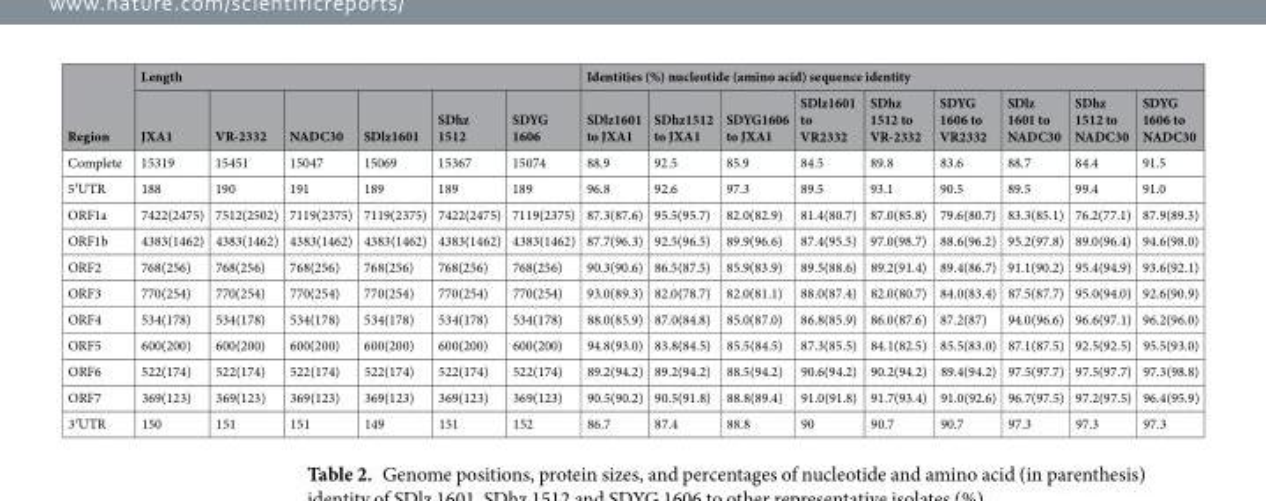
<table><thead><tr><td rowspan="2">Region</td><td colspan="6">Length</td><td colspan="9">Identities (%) nucleotide (amino acid) sequence identity</td></tr><tr><td>JXA1</td><td>VR-2332</td><td>NADC30</td><td>SDlz1601</td><td>SDhz 1512</td><td>SDYG 1606</td><td>SDlz1601 to JXA1</td><td>SDhz1512 to JXA1</td><td>SDYG1606 to JXA1</td><td>SDlz1601 to VR2332</td><td>SDhz 1512 to VR-2332</td><td>SDYG 1606 to VR2332</td><td>SDlz 1601 to NADC30</td><td>SDhz 1512 to NADC30</td><td>SDYG 1606 to NADC30</td></tr></thead><tbody><tr><td>Complete</td><td>15319</td><td>15451</td><td>15047</td><td>15069</td><td>15367</td><td>15074</td><td>88.9</td><td>92.5</td><td>85.9</td><td>84.5</td><td>89.8</td><td>83.6</td><td>88.7</td><td>84.4</td><td>91.5</td></tr><tr><td>5′UTR</td><td>188</td><td>190</td><td>191</td><td>189</td><td>189</td><td>189</td><td>96.8</td><td>92.6</td><td>97.3</td><td>89.5</td><td>93.1</td><td>90.5</td><td>89.5</td><td>99.4</td><td>91.0</td></tr><tr><td>ORF1a</td><td>7422(2475)</td><td>7512(2502)</td><td>7119(2375)</td><td>7119(2375)</td><td>7422(2475)</td><td>7119(2375)</td><td>87.3(87.6)</td><td>95.5(95.7)</td><td>82.0(82.9)</td><td>81.4(80.7)</td><td>87.0(85.8)</td><td>79.6(80.7)</td><td>83.3(85.1)</td><td>76.2(77.1)</td><td>87.9(89.3)</td></tr><tr><td>ORF1b</td><td>4383(1462)</td><td>4383(1462)</td><td>4383(1462)</td><td>4383(1462)</td><td>4383(1462)</td><td>4383(1462)</td><td>87.7(96.3)</td><td>92.5(96.5)</td><td>89.9(96.6)</td><td>87.4(95.5)</td><td>97.0(98.7)</td><td>88.6(96.2)</td><td>95.2(97.8)</td><td>89.0(96.4)</td><td>94.6(98.0)</td></tr><tr><td>ORF2</td><td>768(256)</td><td>768(256)</td><td>768(256)</td><td>768(256)</td><td>768(256)</td><td>768(256)</td><td>90.3(90.6)</td><td>86.5(87.5)</td><td>85.9(83.9)</td><td>89.5(88.6)</td><td>89.2(91.4)</td><td>89.4(86.7)</td><td>91.1(90.2)</td><td>95.4(94.9)</td><td>93.6(92.1)</td></tr><tr><td>ORF3</td><td>770(254)</td><td>770(254)</td><td>770(254)</td><td>770(254)</td><td>770(254)</td><td>770(254)</td><td>93.0(89.3)</td><td>82.0(78.7)</td><td>82.0(81.1)</td><td>88.0(87.4)</td><td>82.0(80.7)</td><td>84.0(83.4)</td><td>87.5(87.7)</td><td>95.0(94.0)</td><td>92.6(90.9)</td></tr><tr><td>ORF4</td><td>534(178)</td><td>534(178)</td><td>534(178)</td><td>534(178)</td><td>534(178)</td><td>534(178)</td><td>88.0(85.9)</td><td>87.0(84.8)</td><td>85.0(87.0)</td><td>86.8(85.9)</td><td>86.0(87.6)</td><td>87.2(87)</td><td>94.0(96.6)</td><td>96.6(97.1)</td><td>96.2(96.0)</td></tr><tr><td>ORF5</td><td>600(200)</td><td>600(200)</td><td>600(200)</td><td>600(200)</td><td>600(200)</td><td>600(200)</td><td>94.8(93.0)</td><td>83.8(84.5)</td><td>85.5(84.5)</td><td>87.3(85.5)</td><td>84.1(82.5)</td><td>85.5(83.0)</td><td>87.1(87.5)</td><td>92.5(92.5)</td><td>95.5(93.0)</td></tr><tr><td>ORF6</td><td>522(174)</td><td>522(174)</td><td>522(174)</td><td>522(174)</td><td>522(174)</td><td>522(174)</td><td>89.2(94.2)</td><td>89.2(94.2)</td><td>88.5(94.2)</td><td>90.6(94.2)</td><td>90.2(94.2)</td><td>89.4(94.2)</td><td>97.5(97.7)</td><td>97.5(97.7)</td><td>97.3(98.8)</td></tr><tr><td>ORF7</td><td>369(123)</td><td>369(123)</td><td>369(123)</td><td>369(123)</td><td>369(123)</td><td>369(123)</td><td>90.5(90.2)</td><td>90.5(91.8)</td><td>88.8(89.4)</td><td>91.0(91.8)</td><td>91.7(93.4)</td><td>91.0(92.6)</td><td>96.7(97.5)</td><td>97.2(97.5)</td><td>96.4(95.9)</td></tr><tr><td>3′UTR</td><td>150</td><td>151</td><td>151</td><td>149</td><td>151</td><td>152</td><td>86.7</td><td>87.4</td><td>88.8</td><td>90</td><td>90.7</td><td>90.7</td><td>97.3</td><td>97.3</td><td>97.3</td></tr></tbody></table>